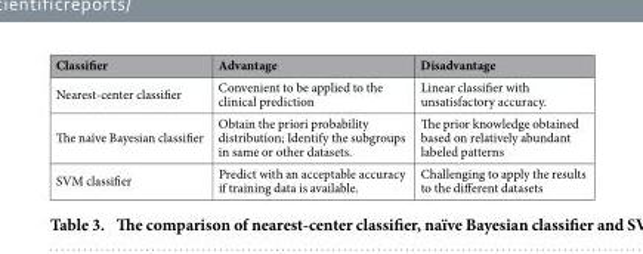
<table><thead><tr><td>Classifier</td><td>Advantage</td><td>Disadvantage</td></tr></thead><tbody><tr><td>Nearest-center classifier</td><td>Convenient to be applied to the clinical prediction</td><td>Linear classifier with unsatisfactory accuracy.</td></tr><tr><td>The naïve Bayesian classifier</td><td>Obtain the priori probability distribution; Identify the subgroups in same or other datasets.</td><td>The prior knowledge obtained based on relatively abundant labeled patterns</td></tr><tr><td>SVM classifier</td><td>Predict with an acceptable accuracy if training data is available.</td><td>Challenging to apply the results to the different datasets</td></tr></tbody></table>